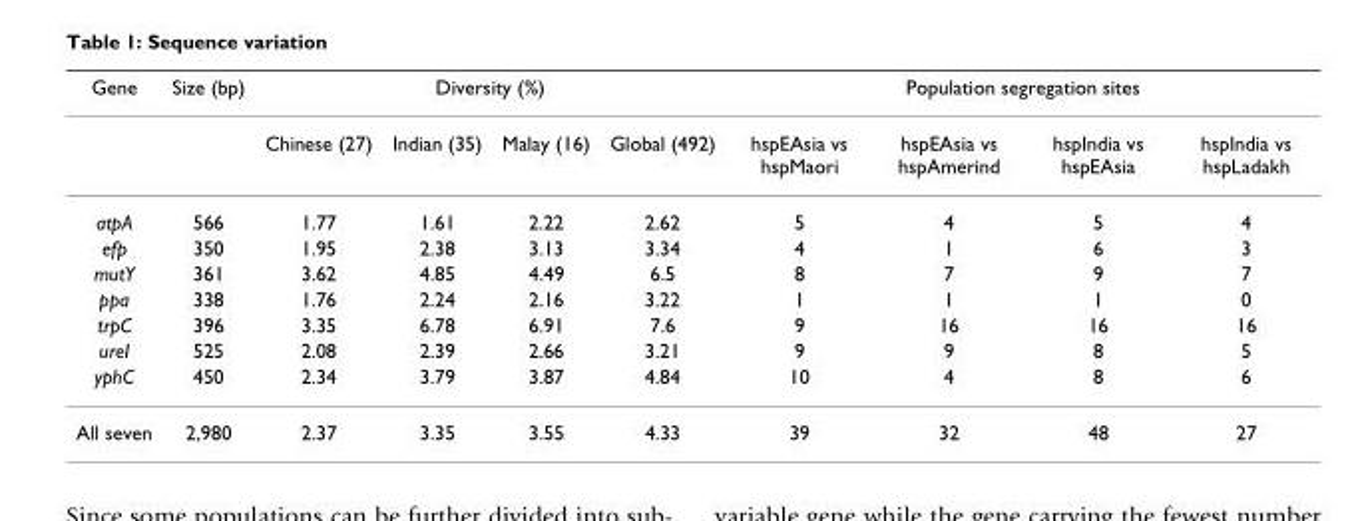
<table><thead><tr><td rowspan="2">Gene</td><td rowspan="2">Size (bp)</td><td colspan="4">Diversity (%)</td><td colspan="4">Population segregation sites</td></tr><tr><td>Chinese (27)</td><td>Indian (35)</td><td>Malay (16)</td><td>Global (492)</td><td>hspEAsia vs hspMaori</td><td>hspEAsia vs hspAmerind</td><td>hspIndia vs hspEAsia</td><td>hspIndia vs hspLadakh</td></tr></thead><tbody><tr><td>atpA</td><td>566</td><td>1.77</td><td>1.61</td><td>2.22</td><td>2.62</td><td>5</td><td>4</td><td>5</td><td>4</td></tr><tr><td>efp</td><td>350</td><td>1.95</td><td>2.38</td><td>3.13</td><td>3.34</td><td>4</td><td>1</td><td>6</td><td>3</td></tr><tr><td>mutY</td><td>361</td><td>3.62</td><td>4.85</td><td>4.49</td><td>6.5</td><td>8</td><td>7</td><td>9</td><td>7</td></tr><tr><td>ppa</td><td>338</td><td>1.76</td><td>2.24</td><td>2.16</td><td>3.22</td><td>1</td><td>1</td><td>1</td><td>0</td></tr><tr><td>trpC</td><td>396</td><td>3.35</td><td>6.78</td><td>6.91</td><td>7.6</td><td>9</td><td>16</td><td>16</td><td>16</td></tr><tr><td>ureI</td><td>525</td><td>2.08</td><td>2.39</td><td>2.66</td><td>3.21</td><td>9</td><td>9</td><td>8</td><td>5</td></tr><tr><td>yphC</td><td>450</td><td>2.34</td><td>3.79</td><td>3.87</td><td>4.84</td><td>10</td><td>4</td><td>8</td><td>6</td></tr><tr><td>All seven</td><td>2,980</td><td>2.37</td><td>3.35</td><td>3.55</td><td>4.33</td><td>39</td><td>32</td><td>48</td><td>27</td></tr></tbody></table>